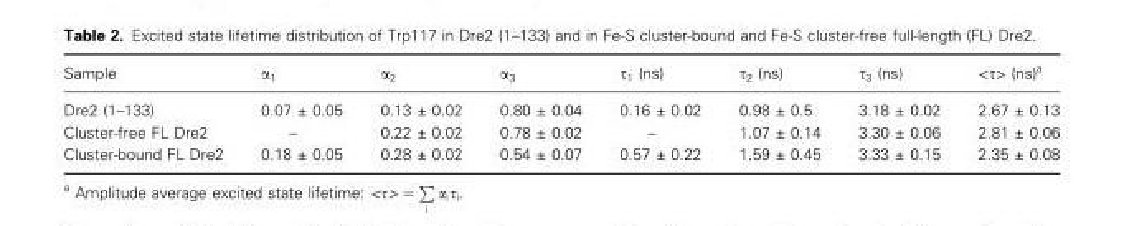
<table><thead><tr><td>Sample</td><td>α<sub>1</sub></td><td>α<sub>2</sub></td><td>α<sub>3</sub></td><td>τ<sub>1</sub> (ns)</td><td>τ<sub>2</sub> (ns)</td><td>τ<sub>3</sub> (ns)</td><td>&lt;τ&gt; (ns)<sup>a</sup></td></tr></thead><tbody><tr><td>Dre2 (1–133)</td><td>0.07 ± 0.05</td><td>0.13 ± 0.02</td><td>0.80 ± 0.04</td><td>0.16 ± 0.02</td><td>0.98 ± 0.5</td><td>3.18 ± 0.02</td><td>2.67 ± 0.13</td></tr><tr><td>Cluster-free FL Dre2</td><td>–</td><td>0.22 ± 0.02</td><td>0.78 ± 0.02</td><td>–</td><td>1.07 ± 0.14</td><td>3.30 ± 0.06</td><td>2.81 ± 0.06</td></tr><tr><td>Cluster-bound FL Dre2</td><td>0.18 ± 0.05</td><td>0.28 ± 0.02</td><td>0.54 ± 0.07</td><td>0.57 ± 0.22</td><td>1.59 ± 0.45</td><td>3.33 ± 0.15</td><td>2.35 ± 0.08</td></tr></tbody></table>